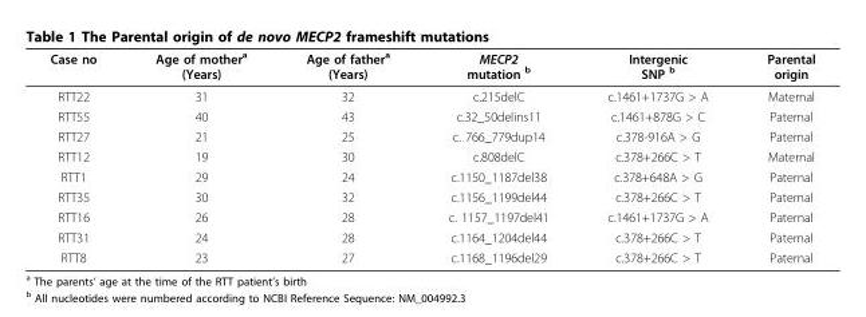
<table><thead><tr><td>Case no</td><td>Age of mother<sup>a</sup> (Years)</td><td>Age of father<sup>a</sup> (Years)</td><td>MECP2 mutation <sup>b</sup></td><td>Intergenic SNP <sup>b</sup></td><td>Parental origin</td></tr></thead><tbody><tr><td>RTT22</td><td>31</td><td>32</td><td>c.215delC</td><td>c.1461+1737G &gt; A</td><td>Maternal</td></tr><tr><td>RTT55</td><td>40</td><td>43</td><td>c.32_50delins11</td><td>c.1461+878G &gt; C</td><td>Paternal</td></tr><tr><td>RTT27</td><td>21</td><td>25</td><td>c. 766_779dup14</td><td>c.378-916A &gt; G</td><td>Paternal</td></tr><tr><td>RTT12</td><td>19</td><td>30</td><td>c.808delC</td><td>c.378+266C &gt; T</td><td>Maternal</td></tr><tr><td>RTT1</td><td>29</td><td>24</td><td>c.1150_1187del38</td><td>c.378+648A &gt; G</td><td>Paternal</td></tr><tr><td>RTT35</td><td>30</td><td>32</td><td>c.1156_1199del44</td><td>c.378+266C &gt; T</td><td>Paternal</td></tr><tr><td>RTT16</td><td>26</td><td>28</td><td>c. 1157_1197del41</td><td>c.1461+1737G &gt; A</td><td>Paternal</td></tr><tr><td>RTT31</td><td>24</td><td>28</td><td>c.1164_1204del44</td><td>c.378+266C &gt; T</td><td>Paternal</td></tr><tr><td>RTT8</td><td>23</td><td>27</td><td>c.1168_1196del29</td><td>c.378+266C &gt; T</td><td>Paternal</td></tr></tbody></table>